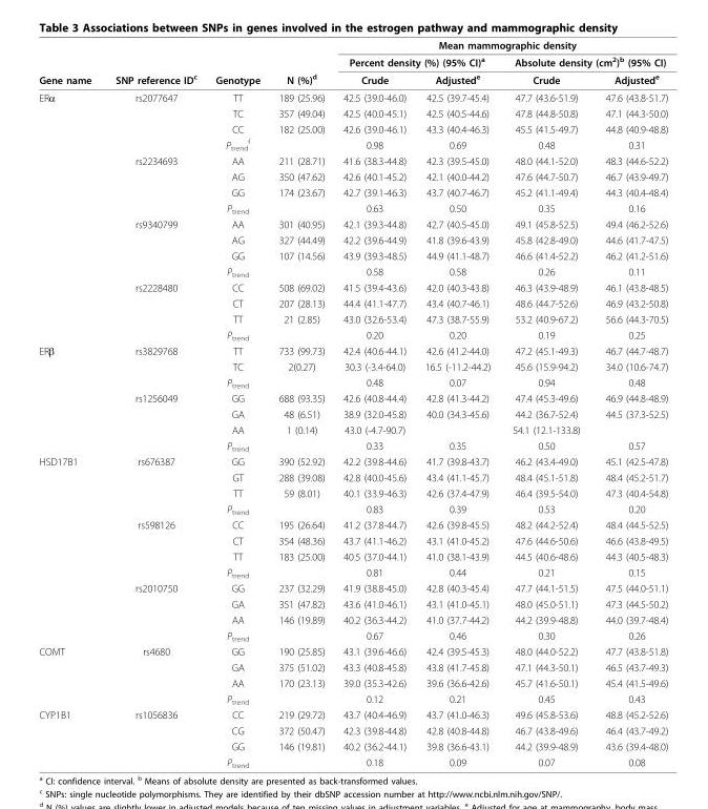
<table><thead><tr><td rowspan="3">Gene name</td><td rowspan="3">SNP reference ID<sup>c</sup></td><td rowspan="3">Genotype</td><td rowspan="3">N (%)<sup>d</sup></td><td colspan="4">Mean mammographic density</td></tr><tr><td colspan="2">Percent density (%) (95% CI)<sup>a</sup></td><td colspan="2">Absolute density (cm<sup>2</sup>)<sup>b</sup> (95% CI)</td></tr><tr><td>Crude</td><td>Adjusted<sup>e</sup></td><td>Crude</td><td>Adjusted<sup>e</sup></td></tr></thead><tbody><tr><td rowspan="16">ERα</td><td>rs2077647</td><td>TT</td><td>189 (25.96)</td><td>42.5 (39.0-46.0)</td><td>42.5 (39.7-45.4)</td><td>47.7 (43.6-51.9)</td><td>47.6 (43.8-51.7)</td></tr><tr><td></td><td>TC</td><td>357 (49.04)</td><td>42.5 (40.0-45.1)</td><td>42.5 (40.5-44.6)</td><td>47.8 (44.8-50.8)</td><td>47.1 (44.3-50.0)</td></tr><tr><td></td><td>CC</td><td>182 (25.00)</td><td>42.6 (39.0-46.1)</td><td>43.3 (40.4-46.3)</td><td>45.5 (41.5-49.7)</td><td>44.8 (40.9-48.8)</td></tr><tr><td></td><td>P<sub>trend</sub> <sup>f</sup></td><td></td><td>0.98</td><td>0.69</td><td>0.48</td><td>0.31</td></tr><tr><td>rs2234693</td><td>AA</td><td>211 (28.71)</td><td>41.6 (38.3-44.8)</td><td>42.3 (39.5-45.0)</td><td>48.0 (44.1-52.0)</td><td>48.3 (44.6-52.2)</td></tr><tr><td></td><td>AG</td><td>350 (47.62)</td><td>42.6 (40.1-45.2)</td><td>42.1 (40.0-44.2)</td><td>47.6 (44.7-50.7)</td><td>46.7 (43.9-49.7)</td></tr><tr><td></td><td>GG</td><td>174 (23.67)</td><td>42.7 (39.1-46.3)</td><td>43.7 (40.7-46.7)</td><td>45.2 (41.1-49.4)</td><td>44.3 (40.4-48.4)</td></tr><tr><td></td><td>P<sub>trend</sub></td><td></td><td>0.63</td><td>0.50</td><td>0.35</td><td>0.16</td></tr><tr><td>rs9340799</td><td>AA</td><td>301 (40.95)</td><td>42.1 (39.3-44.8)</td><td>42.7 (40.5-45.0)</td><td>49.1 (45.8-52.5)</td><td>49.4 (46.2-52.6)</td></tr><tr><td></td><td>AG</td><td>327 (44.49)</td><td>42.2 (39.6-44.9)</td><td>41.8 (39.6-43.9)</td><td>45.8 (42.8-49.0)</td><td>44.6 (41.7-47.5)</td></tr><tr><td></td><td>GG</td><td>107 (14.56)</td><td>43.9 (39.3-48.5)</td><td>44.9 (41.1-48.7)</td><td>46.6 (41.4-52.2)</td><td>46.2 (41.2-51.6)</td></tr><tr><td></td><td>P<sub>trend</sub></td><td></td><td>0.58</td><td>0.58</td><td>0.26</td><td>0.11</td></tr><tr><td>rs2228480</td><td>CC</td><td>508 (69.02)</td><td>41.5 (39.4-43.6)</td><td>42.0 (40.3-43.8)</td><td>46.3 (43.9-48.9)</td><td>46.1 (43.8-48.5)</td></tr><tr><td></td><td>CT</td><td>207 (28.13)</td><td>44.4 (41.1-47.7)</td><td>43.4 (40.7-46.1)</td><td>48.6 (44.7-52.6)</td><td>46.9 (43.2-50.8)</td></tr><tr><td></td><td>TT</td><td>21 (2.85)</td><td>43.0 (32.6-53.4)</td><td>47.3 (38.7-55.9)</td><td>53.2 (40.9-67.2)</td><td>56.6 (44.3-70.5)</td></tr><tr><td></td><td>P<sub>trend</sub></td><td></td><td>0.20</td><td>0.20</td><td>0.19</td><td>0.25</td></tr><tr><td rowspan="7">ERβ</td><td>rs3829768</td><td>TT</td><td>733 (99.73)</td><td>42.4 (40.6-44.1)</td><td>42.6 (41.2-44.0)</td><td>47.2 (45.1-49.3)</td><td>46.7 (44.7-48.7)</td></tr><tr><td></td><td>TC</td><td>2(0.27)</td><td>30.3 (-3.4-64.0)</td><td>16.5 (-11.2-44.2)</td><td>45.6 (15.9-94.2)</td><td>34.0 (10.6-74.7)</td></tr><tr><td></td><td>P<sub>trend</sub></td><td></td><td>0.48</td><td>0.07</td><td>0.94</td><td>0.48</td></tr><tr><td>rs1256049</td><td>GG</td><td>688 (93.35)</td><td>42.6 (40.8-44.4)</td><td>42.8 (41.3-44.2)</td><td>47.4 (45.3-49.6)</td><td>46.9 (44.8-48.9)</td></tr><tr><td></td><td>GA</td><td>48 (6.51)</td><td>38.9 (32.0-45.8)</td><td>40.0 (34.3-45.6)</td><td>44.2 (36.7-52.4)</td><td>44.5 (37.3-52.5)</td></tr><tr><td></td><td>AA</td><td>1 (0.14)</td><td>43.0 (-4.7-90.7)</td><td></td><td>54.1 (12.1-133.8)</td><td></td></tr><tr><td></td><td>P<sub>trend</sub></td><td></td><td>0.33</td><td>0.35</td><td>0.50</td><td>0.57</td></tr><tr><td rowspan="12">HSD17B1</td><td>rs676387</td><td>GG</td><td>390 (52.92)</td><td>42.2 (39.8-44.6)</td><td>41.7 (39.8-43.7)</td><td>46.2 (43.4-49.0)</td><td>45.1 (42.5-47.8)</td></tr><tr><td></td><td>GT</td><td>288 (39.08)</td><td>42.8 (40.0-45.6)</td><td>43.4 (41.1-45.7)</td><td>48.4 (45.1-51.8)</td><td>48.4 (45.2-51.7)</td></tr><tr><td></td><td>TT</td><td>59 (8.01)</td><td>40.1 (33.9-46.3)</td><td>42.6 (37.4-47.9)</td><td>46.4 (39.5-54.0)</td><td>47.3 (40.4-54.8)</td></tr><tr><td></td><td>P<sub>trend</sub></td><td></td><td>0.83</td><td>0.39</td><td>0.53</td><td>0.20</td></tr><tr><td>rs598126</td><td>CC</td><td>195 (26.64)</td><td>41.2 (37.8-44.7)</td><td>42.6 (39.8-45.5)</td><td>48.2 (44.2-52.4)</td><td>48.4 (44.5-52.5)</td></tr><tr><td></td><td>CT</td><td>354 (48.36)</td><td>43.7 (41.1-46.2)</td><td>43.1 (41.0-45.2)</td><td>47.6 (44.6-50.6)</td><td>46.6 (43.8-49.5)</td></tr><tr><td></td><td>TT</td><td>183 (25.00)</td><td>40.5 (37.0-44.1)</td><td>41.0 (38.1-43.9)</td><td>44.5 (40.6-48.6)</td><td>44.3 (40.5-48.3)</td></tr><tr><td></td><td>P<sub>trend</sub></td><td></td><td>0.81</td><td>0.44</td><td>0.21</td><td>0.15</td></tr><tr><td>rs2010750</td><td>GG</td><td>237 (32.29)</td><td>41.9 (38.8-45.0)</td><td>42.8 (40.3-45.4)</td><td>47.7 (44.1-51.5)</td><td>47.5 (44.0-51.1)</td></tr><tr><td></td><td>GA</td><td>351 (47.82)</td><td>43.6 (41.0-46.1)</td><td>43.1 (41.0-45.1)</td><td>48.0 (45.0-51.1)</td><td>47.3 (44.5-50.2)</td></tr><tr><td></td><td>AA</td><td>146 (19.89)</td><td>40.2 (36.3-44.2)</td><td>41.0 (37.7-44.2)</td><td>44.2 (39.9-48.8)</td><td>44.0 (39.7-48.4)</td></tr><tr><td></td><td>P<sub>trend</sub></td><td></td><td>0.67</td><td>0.46</td><td>0.30</td><td>0.26</td></tr><tr><td rowspan="4">COMT</td><td>rs4680</td><td>GG</td><td>190 (25.85)</td><td>43.1 (39.6-46.6)</td><td>42.4 (39.5-45.3)</td><td>48.0 (44.0-52.2)</td><td>47.7 (43.8-51.8)</td></tr><tr><td></td><td>GA</td><td>375 (51.02)</td><td>43.3 (40.8-45.8)</td><td>43.8 (41.7-45.8)</td><td>47.1 (44.3-50.1)</td><td>46.5 (43.7-49.3)</td></tr><tr><td></td><td>AA</td><td>170 (23.13)</td><td>39.0 (35.3-42.6)</td><td>39.6 (36.6-42.6)</td><td>45.7 (41.6-50.1)</td><td>45.4 (41.5-49.6)</td></tr><tr><td></td><td>P<sub>trend</sub></td><td></td><td>0.12</td><td>0.21</td><td>0.45</td><td>0.43</td></tr><tr><td rowspan="4">CYP1B1</td><td>rs1056836</td><td>CC</td><td>219 (29.72)</td><td>43.7 (40.4-46.9)</td><td>43.7 (41.0-46.3)</td><td>49.6 (45.8-53.6)</td><td>48.8 (45.2-52.6)</td></tr><tr><td></td><td>CG</td><td>372 (50.47)</td><td>42.3 (39.8-44.8)</td><td>42.8 (40.8-44.8)</td><td>46.7 (43.8-49.6)</td><td>46.4 (43.7-49.2)</td></tr><tr><td></td><td>GG</td><td>146 (19.81)</td><td>40.2 (36.2-44.1)</td><td>39.8 (36.6-43.1)</td><td>44.2 (39.9-48.9)</td><td>43.6 (39.4-48.0)</td></tr><tr><td></td><td>P<sub>trend</sub></td><td></td><td>0.18</td><td>0.09</td><td>0.07</td><td>0.08</td></tr></tbody></table>